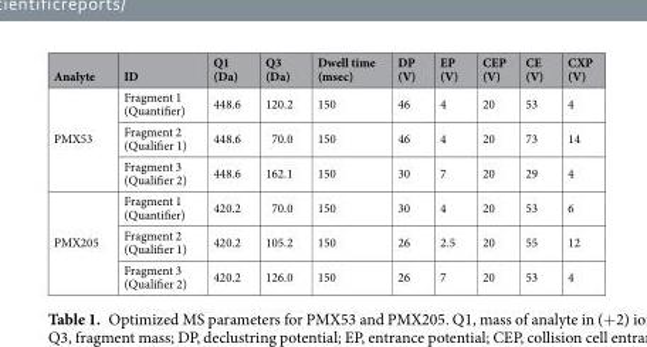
<table><thead><tr><td>Analyte</td><td>ID</td><td>Q1 (Da)</td><td>Q3 (Da)</td><td>Dwell time (msec)</td><td>DP (V)</td><td>EP (V)</td><td>CEP (V)</td><td>CE (V)</td><td>CXP (V)</td></tr></thead><tbody><tr><td rowspan="3">PMX53</td><td>Fragment 1 (Quantifier)</td><td>448.6</td><td>120.2</td><td>150</td><td>46</td><td>4</td><td>20</td><td>53</td><td>4</td></tr><tr><td>Fragment 2 (Qualifier 1)</td><td>448.6</td><td>70.0</td><td>150</td><td>46</td><td>4</td><td>20</td><td>73</td><td>14</td></tr><tr><td>Fragment 3 (Qualifier 2)</td><td>448.6</td><td>162.1</td><td>150</td><td>30</td><td>7</td><td>20</td><td>29</td><td>4</td></tr><tr><td rowspan="3">PMX205</td><td>Fragment 1 (Quantifier)</td><td>420.2</td><td>70.0</td><td>150</td><td>30</td><td>4</td><td>20</td><td>53</td><td>6</td></tr><tr><td>Fragment 2 (Qualifier 1)</td><td>420.2</td><td>105.2</td><td>150</td><td>26</td><td>2.5</td><td>20</td><td>55</td><td>12</td></tr><tr><td>Fragment 3 (Qualifier 2)</td><td>420.2</td><td>126.0</td><td>150</td><td>26</td><td>7</td><td>20</td><td>53</td><td>4</td></tr></tbody></table>